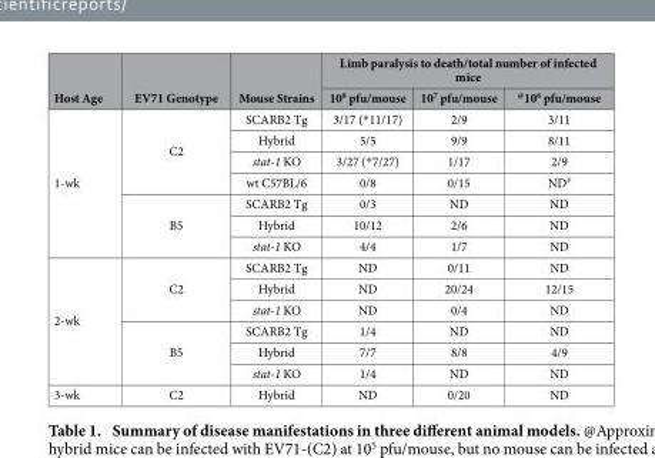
<table><thead><tr><td rowspan="2">Host Age</td><td rowspan="2">EV71 Genotype</td><td rowspan="2">Mouse Strains</td><td colspan="3">Limb paralysis to death/total number of infected mice</td></tr><tr><td>10<sup>8</sup> pfu/mouse</td><td>10<sup>7</sup> pfu/mouse</td><td><sup>@</sup>10<sup>6</sup> pfu/mouse</td></tr></thead><tbody><tr><td rowspan="7">1-wk</td><td rowspan="4">C2</td><td>SCARB2 Tg</td><td>3/17 (* 11/17)</td><td>2/9</td><td>3/11</td></tr><tr><td>Hybrid</td><td>5/5</td><td>9/9</td><td>8/11</td></tr><tr><td>stat-1 KO</td><td>3/27 (* 7/27)</td><td>1/17</td><td>2/9</td></tr><tr><td>wt C57BL/6</td><td>0/8</td><td>0/15</td><td>ND<sup>#</sup></td></tr><tr><td rowspan="3">B5</td><td>SCARB2 Tg</td><td>0/3</td><td>ND</td><td>ND</td></tr><tr><td>Hybrid</td><td>10/12</td><td>2/6</td><td>ND</td></tr><tr><td>stat-1 KO</td><td>4/4</td><td>1/7</td><td>ND</td></tr><tr><td rowspan="6">2-wk</td><td rowspan="3">C2</td><td>SCARB2 Tg</td><td>ND</td><td>0/11</td><td>ND</td></tr><tr><td>Hybrid</td><td>ND</td><td>20/24</td><td>12/15</td></tr><tr><td>stat-1 KO</td><td>ND</td><td>0/4</td><td>ND</td></tr><tr><td rowspan="3">B5</td><td>SCARB2 Tg</td><td>1/4</td><td>ND</td><td>ND</td></tr><tr><td>Hybrid</td><td>7/7</td><td>8/8</td><td>4/9</td></tr><tr><td>stat-1 KO</td><td>1/4</td><td>ND</td><td>ND</td></tr><tr><td>3-wk</td><td>C2</td><td>Hybrid</td><td>ND</td><td>0/20</td><td>ND</td></tr></tbody></table>